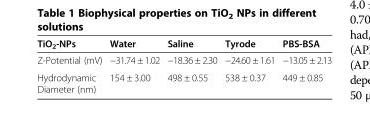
<table><thead><tr><td>TiO<sub>2</sub>-NPs</td><td>Water</td><td>Saline</td><td>Tyrode</td><td>PBS-BSA</td></tr></thead><tbody><tr><td>Z-Potential (mV)</td><td>−31.74 ± 1.02</td><td>−18.36 ± 2.30</td><td>−24.60 ± 1.61</td><td>−13.05 ± 2.13</td></tr><tr><td>Hydrodynamic Diameter (nm)</td><td>154 ± 3.00</td><td>498 ± 0.55</td><td>538 ± 0.37</td><td>449 ± 0.85</td></tr></tbody></table>